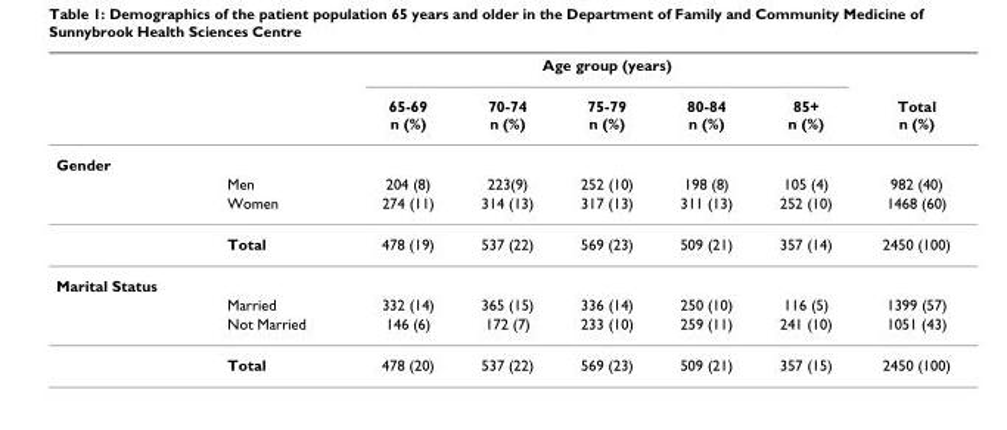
<table><thead><tr><td rowspan="2"></td><td rowspan="2"></td><td colspan="5">Age group (years)</td><td rowspan="2">Total n (%)</td></tr><tr><td>65-69 n (%)</td><td>70-74 n (%)</td><td>75-79 n (%)</td><td>80-84 n (%)</td><td>85+ n (%)</td></tr></thead><tbody><tr><td colspan="8">Gender</td></tr><tr><td></td><td>Men</td><td>204 (8)</td><td>223(9)</td><td>252 (10)</td><td>198 (8)</td><td>105 (4)</td><td>982 (40)</td></tr><tr><td></td><td>Women</td><td>274 (11)</td><td>314 (13)</td><td>317 (13)</td><td>311 (13)</td><td>252 (10)</td><td>1468 (60)</td></tr><tr><td></td><td>Total</td><td>478 (19)</td><td>537 (22)</td><td>569 (23)</td><td>509 (21)</td><td>357 (14)</td><td>2450 (100)</td></tr><tr><td colspan="8">Marital Status</td></tr><tr><td></td><td>Married</td><td>332 (14)</td><td>365 (15)</td><td>336 (14)</td><td>250 (10)</td><td>116 (5)</td><td>1399 (57)</td></tr><tr><td></td><td>Not Married</td><td>146 (6)</td><td>172 (7)</td><td>233 (10)</td><td>259 (11)</td><td>241 (10)</td><td>1051 (43)</td></tr><tr><td></td><td>Total</td><td>478 (20)</td><td>537 (22)</td><td>569 (23)</td><td>509 (21)</td><td>357 (15)</td><td>2450 (100)</td></tr></tbody></table>